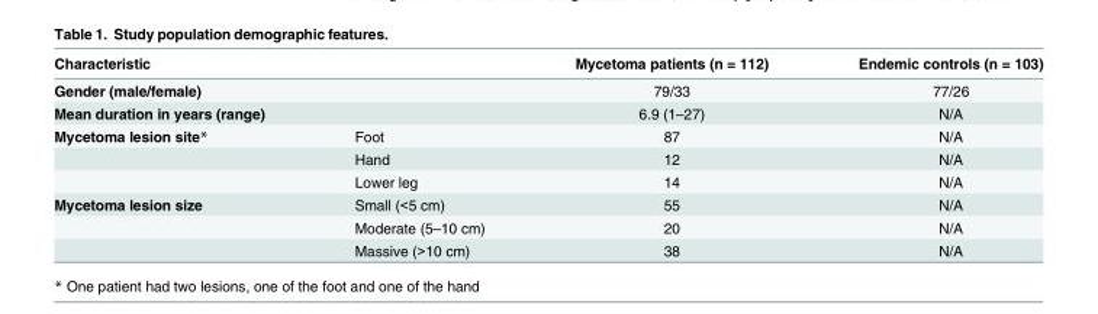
<table><thead><tr><td>Characteristic</td><td></td><td>Mycetoma patients (n = 112)</td><td>Endemic controls (n = 103)</td></tr></thead><tbody><tr><td>Gender (male/female)</td><td></td><td>79/33</td><td>77/26</td></tr><tr><td>Mean duration in years (range)</td><td></td><td>6.9 (1–27)</td><td>N/A</td></tr><tr><td rowspan="3">Mycetoma lesion site*</td><td>Foot</td><td>87</td><td>N/A</td></tr><tr><td>Hand</td><td>12</td><td>N/A</td></tr><tr><td>Lower leg</td><td>14</td><td>N/A</td></tr><tr><td rowspan="3">Mycetoma lesion size</td><td>Small (&lt;5 cm)</td><td>55</td><td>N/A</td></tr><tr><td>Moderate (5–10 cm)</td><td>20</td><td>N/A</td></tr><tr><td>Massive (&gt;10 cm)</td><td>38</td><td>N/A</td></tr></tbody></table>